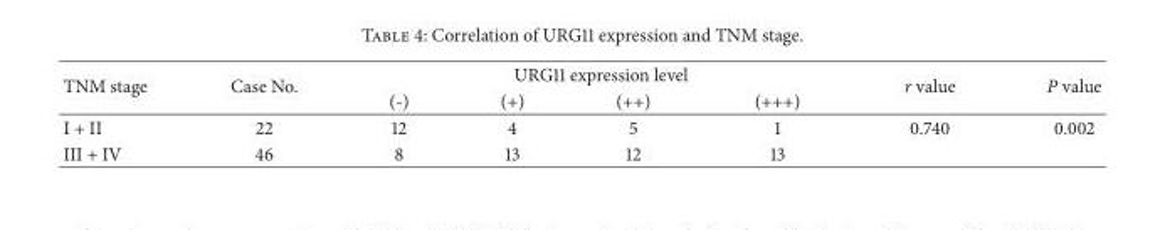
<table><thead><tr><td rowspan="2">TNM stage</td><td rowspan="2">Case No.</td><td colspan="4">URG11 expression level</td><td rowspan="2">r value</td><td rowspan="2">P value</td></tr><tr><td>(-)</td><td>(+)</td><td>(++)</td><td>(+++)</td></tr></thead><tbody><tr><td>I + II</td><td>22</td><td>12</td><td>4</td><td>5</td><td>1</td><td>0.740</td><td>0.002</td></tr><tr><td>III + IV</td><td>46</td><td>8</td><td>13</td><td>12</td><td>13</td><td></td><td></td></tr></tbody></table>